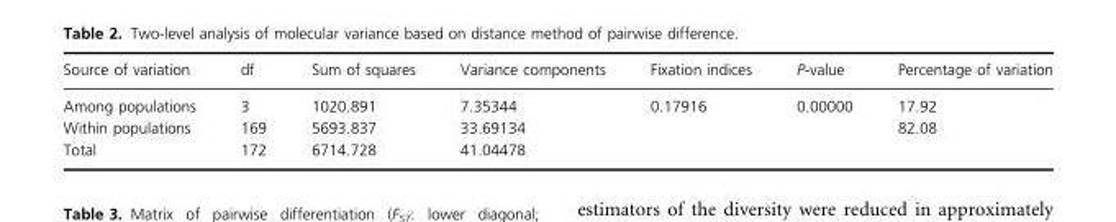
<table><thead><tr><td>Source of variation</td><td>df</td><td>Sum of squares</td><td>Variance components</td><td>Fixation indices</td><td>P-value</td><td>Percentage of variation</td></tr></thead><tbody><tr><td>Among populations</td><td>3</td><td>1020.891</td><td>7.35344</td><td>0.17916</td><td>0.00000</td><td>17.92</td></tr><tr><td>Within populations</td><td>169</td><td>5693.837</td><td>33.69134</td><td></td><td></td><td>82.08</td></tr><tr><td>Total</td><td>172</td><td>6714.728</td><td>41.04478</td><td></td><td></td><td></td></tr></tbody></table>